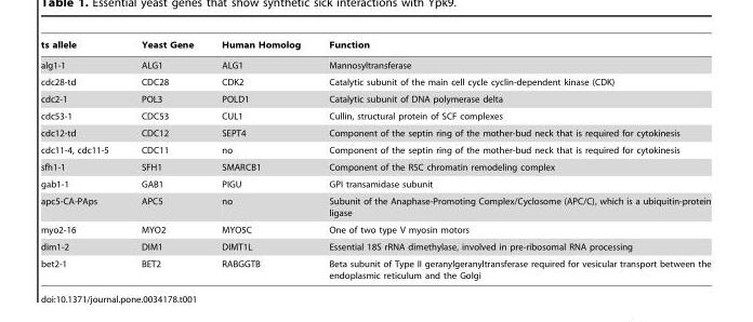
<table><thead><tr><td>ts allele</td><td>Yeast Gene</td><td>Human Homolog</td><td>Function</td></tr></thead><tbody><tr><td>alg1-1</td><td>ALG1</td><td>ALG1</td><td>Mannosyltransferase</td></tr><tr><td>cdc28-td</td><td>CDC28</td><td>CDK2</td><td>Catalytic subunit of the main cell cycle cyclin-dependent kinase (CDK)</td></tr><tr><td>cdc2-1</td><td>POL3</td><td>POLD1</td><td>Catalytic subunit of DNA polymerase delta</td></tr><tr><td>cdc53-1</td><td>CDC53</td><td>CUL1</td><td>Cullin, structural protein of SCF complexes</td></tr><tr><td>cdc12-td</td><td>CDC12</td><td>SEPT4</td><td>Component of the septin ring of the mother-bud neck that is required for cytokinesis</td></tr><tr><td>cdc11-4, cdc11-5</td><td>CDC11</td><td>no</td><td>Component of the septin ring of the mother-bud neck that is required for cytokinesis</td></tr><tr><td>sfh1-1</td><td>SFH1</td><td>SMARCB1</td><td>Component of the RSC chromatin remodeling complex</td></tr><tr><td>gab1-1</td><td>GAB1</td><td>PIGU</td><td>GPI transamidase subunit</td></tr><tr><td>apc5-CA-PAps</td><td>APC5</td><td>no</td><td>Subunit of the Anaphase-Promoting Complex/Cyclosome (APC/C), which is a ubiquitin-protein ligase</td></tr><tr><td>myo2-16</td><td>MYO2</td><td>MYO5C</td><td>One of two type V myosin motors</td></tr><tr><td>dim1-2</td><td>DIM1</td><td>DIMT1L</td><td>Essential 18S rRNA dimethylase, involved in pre-ribosomal RNA processing</td></tr><tr><td>bet2-1</td><td>BET2</td><td>RABGGTB</td><td>Beta subunit of Type II geranylgeranyltransferase required for vesicular transport between the endoplasmic reticulum and the Golgi</td></tr></tbody></table>